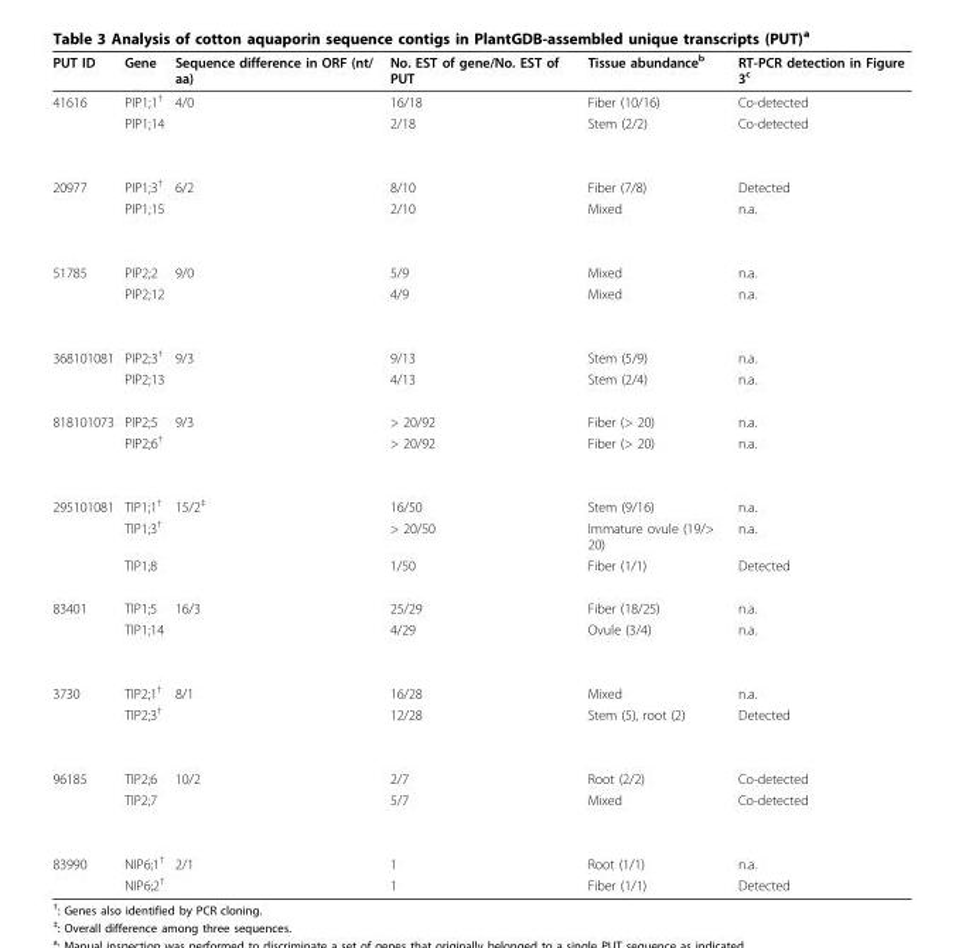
<table><thead><tr><td>PUT ID</td><td>Gene</td><td>Sequence difference in ORF (nt/ aa)</td><td>No. EST of gene/No. EST of PUT</td><td>Tissue abundance<sup>b</sup></td><td>RT-PCR detection in Figure 3<sup>c</sup></td></tr></thead><tbody><tr><td rowspan="2">41616</td><td>PIP1;1<sup>†</sup></td><td>4/0</td><td>16/18</td><td>Fiber (10/16)</td><td>Co-detected</td></tr><tr><td>PIP1;14</td><td></td><td>2/18</td><td>Stem (2/2)</td><td>Co-detected</td></tr><tr><td rowspan="2">20977</td><td>PIP1;3<sup>†</sup></td><td>6/2</td><td>8/10</td><td>Fiber (7/8)</td><td>Detected</td></tr><tr><td>PIP1;15</td><td></td><td>2/10</td><td>Mixed</td><td>n.a.</td></tr><tr><td rowspan="2">51785</td><td>PIP2;2</td><td>9/0</td><td>5/9</td><td>Mixed</td><td>n.a.</td></tr><tr><td>PIP2;12</td><td></td><td>4/9</td><td>Mixed</td><td>n.a.</td></tr><tr><td rowspan="2">368101081</td><td>PIP2;3<sup>†</sup></td><td>9/3</td><td>9/13</td><td>Stem (5/9)</td><td>n.a.</td></tr><tr><td>PIP2;13</td><td></td><td>4/13</td><td>Stem (2/4)</td><td>n.a.</td></tr><tr><td rowspan="2">818101073</td><td>PIP2;5</td><td>9/3</td><td>&gt; 20/92</td><td>Fiber (&gt; 20)</td><td>n.a.</td></tr><tr><td>PIP2;6<sup>†</sup></td><td></td><td>&gt; 20/92</td><td>Fiber (&gt; 20)</td><td>n.a.</td></tr><tr><td rowspan="3">295101081</td><td>TIP1;1<sup>†</sup></td><td>15/2<sup>‡</sup></td><td>16/50</td><td>Stem (9/16)</td><td>n.a.</td></tr><tr><td>TIP1;3<sup>†</sup></td><td></td><td>&gt; 20/50</td><td>Immature ovule (19/&gt; 20)</td><td>n.a.</td></tr><tr><td>TIP1;8</td><td></td><td>1/50</td><td>Fiber (1/1)</td><td>Detected</td></tr><tr><td rowspan="2">83401</td><td>TIP1;5</td><td>16/3</td><td>25/29</td><td>Fiber (18/25)</td><td>n.a.</td></tr><tr><td>TIP1;14</td><td></td><td>4/29</td><td>Ovule (3/4)</td><td>n.a.</td></tr><tr><td rowspan="2">3730</td><td>TIP2;1<sup>†</sup></td><td>8/1</td><td>16/28</td><td>Mixed</td><td>n.a.</td></tr><tr><td>TIP2;3<sup>†</sup></td><td></td><td>12/28</td><td>Stem (5), root (2)</td><td>Detected</td></tr><tr><td rowspan="2">96185</td><td>TIP2;6</td><td>10/2</td><td>2/7</td><td>Root (2/2)</td><td>Co-detected</td></tr><tr><td>TIP2;7</td><td></td><td>5/7</td><td>Mixed</td><td>Co-detected</td></tr><tr><td rowspan="2">83990</td><td>NIP6;1<sup>†</sup></td><td>2/1</td><td>1</td><td>Root (1/1)</td><td>n.a.</td></tr><tr><td>NIP6;2<sup>†</sup></td><td></td><td>1</td><td>Fiber (1/1)</td><td>Detected</td></tr></tbody></table>